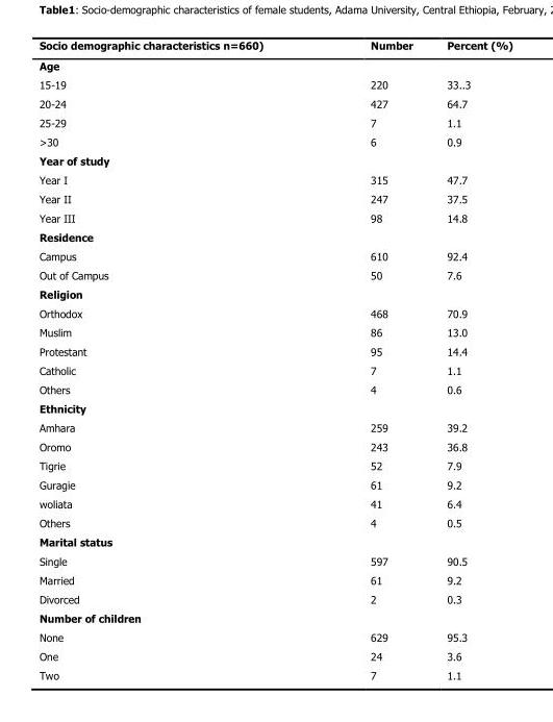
<table><thead><tr><td>Socio demographic characteristics n=660)</td><td>Number</td><td>Percent (%)</td></tr></thead><tbody><tr><td colspan="3">Age</td></tr><tr><td>15-19</td><td>220</td><td>33..3</td></tr><tr><td>20-24</td><td>427</td><td>64.7</td></tr><tr><td>25-29</td><td>7</td><td>1.1</td></tr><tr><td>&gt;30</td><td>6</td><td>0.9</td></tr><tr><td colspan="3">Year of study</td></tr><tr><td>Year I</td><td>315</td><td>47.7</td></tr><tr><td>Year II</td><td>247</td><td>37.5</td></tr><tr><td>Year III</td><td>98</td><td>14.8</td></tr><tr><td colspan="3">Residence</td></tr><tr><td>Campus</td><td>610</td><td>92.4</td></tr><tr><td>Out of Campus</td><td>50</td><td>7.6</td></tr><tr><td colspan="3">Religion</td></tr><tr><td>Orthodox</td><td>468</td><td>70.9</td></tr><tr><td>Muslim</td><td>86</td><td>13.0</td></tr><tr><td>Protestant</td><td>95</td><td>14.4</td></tr><tr><td>Catholic</td><td>7</td><td>1.1</td></tr><tr><td>Others</td><td>4</td><td>0.6</td></tr><tr><td colspan="3">Ethnicity</td></tr><tr><td>Amhara</td><td>259</td><td>39.2</td></tr><tr><td>Oromo</td><td>243</td><td>36.8</td></tr><tr><td>Tigrie</td><td>52</td><td>7.9</td></tr><tr><td>Guragie</td><td>61</td><td>9.2</td></tr><tr><td>woliata</td><td>41</td><td>6.4</td></tr><tr><td>Others</td><td>4</td><td>0.5</td></tr><tr><td colspan="3">Marital status</td></tr><tr><td>Single</td><td>597</td><td>90.5</td></tr><tr><td>Married</td><td>61</td><td>9.2</td></tr><tr><td>Divorced</td><td>2</td><td>0.3</td></tr><tr><td colspan="3">Number of children</td></tr><tr><td>None</td><td>629</td><td>95.3</td></tr><tr><td>One</td><td>24</td><td>3.6</td></tr><tr><td>Two</td><td>7</td><td>1.1</td></tr></tbody></table>